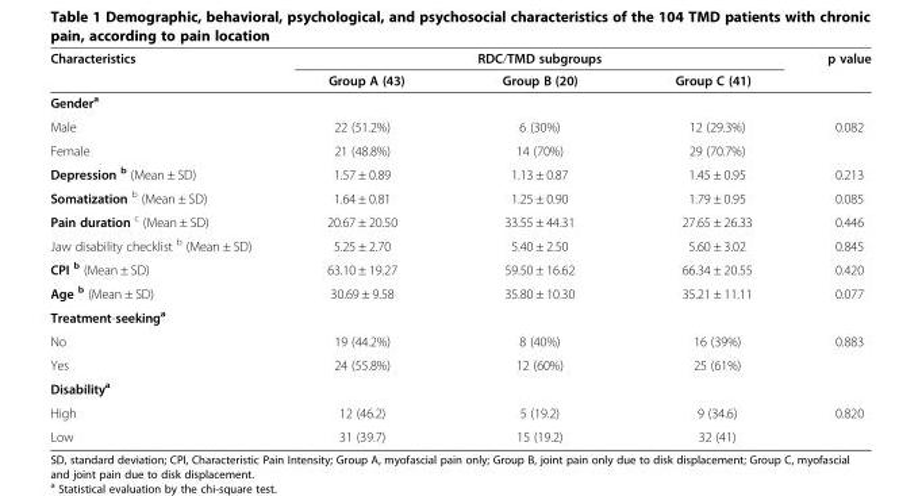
<table><thead><tr><td rowspan="2">Characteristics</td><td colspan="3">RDC/TMD subgroups</td><td rowspan="2">p value</td></tr><tr><td>Group A (43)</td><td>Group B (20)</td><td>Group C (41)</td></tr></thead><tbody><tr><td colspan="5">Gender<sup>a</sup></td></tr><tr><td>Male</td><td>22 (51.2%)</td><td>6 (30%)</td><td>12 (29.3%)</td><td>0.082</td></tr><tr><td>Female</td><td>21 (48.8%)</td><td>14 (70%)</td><td>29 (70.7%)</td><td></td></tr><tr><td>Depression <sup>b</sup> (Mean ± SD)</td><td>1.57 ± 0.89</td><td>1.13 ± 0.87</td><td>1.45 ± 0.95</td><td>0.213</td></tr><tr><td>Somatization <sup>b</sup> (Mean ± SD)</td><td>1.64 ± 0.81</td><td>1.25 ± 0.90</td><td>1.79 ± 0.95</td><td>0.085</td></tr><tr><td>Pain duration <sup>c</sup> (Mean ± SD)</td><td>20.67 ± 20.50</td><td>33.55 ± 44.31</td><td>27.65 ± 26.33</td><td>0.446</td></tr><tr><td>Jaw disability checklist <sup>b</sup> (Mean ± SD)</td><td>5.25 ± 2.70</td><td>5.40 ± 2.50</td><td>5.60 ± 3.02</td><td>0.845</td></tr><tr><td>CPI <sup>b</sup> (Mean ± SD)</td><td>63.10 ± 19.27</td><td>59.50 ± 16.62</td><td>66.34 ± 20.55</td><td>0.420</td></tr><tr><td>Age <sup>b</sup> (Mean ± SD)</td><td>30.69 ± 9.58</td><td>35.80 ± 10.30</td><td>35.21 ± 11.11</td><td>0.077</td></tr><tr><td colspan="5">Treatment-seeking<sup>a</sup></td></tr><tr><td>No</td><td>19 (44.2%)</td><td>8 (40%)</td><td>16 (39%)</td><td>0.883</td></tr><tr><td>Yes</td><td>24 (55.8%)</td><td>12 (60%)</td><td>25 (61%)</td><td></td></tr><tr><td colspan="5">Disability<sup>a</sup></td></tr><tr><td>High</td><td>12 (46.2)</td><td>5 (19.2)</td><td>9 (34.6)</td><td>0.820</td></tr><tr><td>Low</td><td>31 (39.7)</td><td>15 (19.2)</td><td>32 (41)</td><td></td></tr></tbody></table>